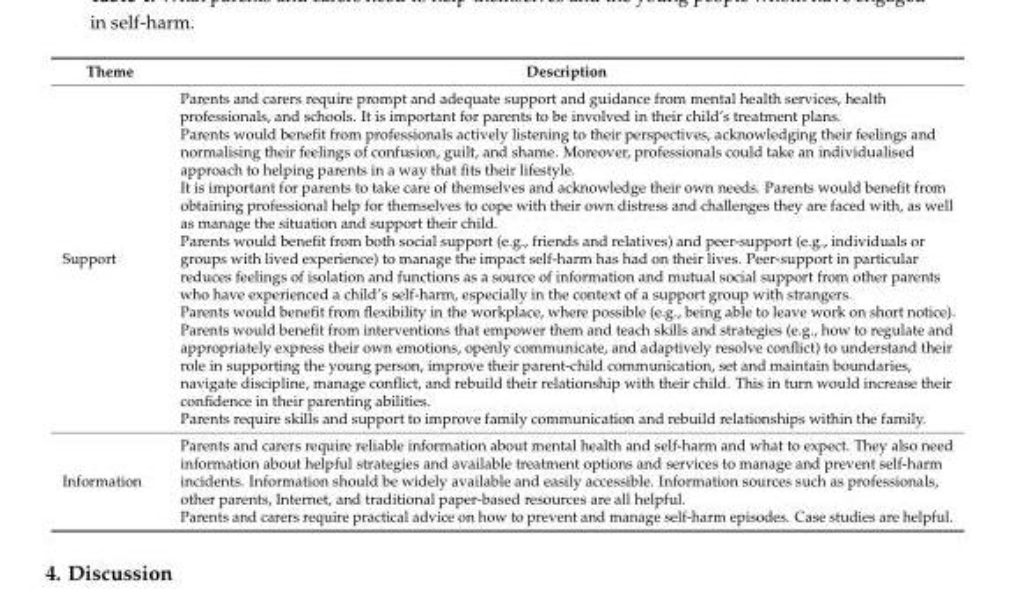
<table><thead><tr><td>Theme</td><td>Description</td></tr></thead><tbody><tr><td>Support</td><td>Parents and carers require prompt and adequate support and guidance from mental health services, health professionals, and schools. It is important for parents to be involved in their child’s treatment plans. Parents would benefit from professionals actively listening to their perspectives, acknowledging their feelings and normalising their feelings of confusion, guilt, and shame. Moreover, professionals could take an individualised approach to helping parents in a way that fits their lifestyle. It is important for parents to take care of themselves and acknowledge their own needs. Parents would benefit from obtaining professional help for themselves to cope with their own distress and challenges they are faced with, as well as manage the situation and support their child. Parents would benefit from both social support (e.g., friends and relatives) and peer-support (e.g., individuals or groups with lived experience) to manage the impact self-harm has had on their lives. Peer-support in particular reduces feelings of isolation and functions as a source of information and mutual social support from other parents who have experienced a child’s self-harm, especially in the context of a support group with strangers. Parents would benefit from flexibility in the workplace, where possible (e.g., being able to leave work on short notice). Parents would benefit from interventions that empower them and teach skills and strategies (e.g., how to regulate and appropriately express their own emotions, openly communicate, and adaptively resolve conflict) to understand their role in supporting the young person, improve their parent-child communication, set and maintain boundaries, navigate discipline, manage conflict, and rebuild their relationship with their child. This in turn would increase their confidence in their parenting abilities. Parents require skills and support to improve family communication and rebuild relationships within the family.</td></tr><tr><td>Information</td><td>Parents and carers require reliable information about mental health and self-harm and what to expect. They also need information about helpful strategies and available treatment options and services to manage and prevent self-harm incidents. Information should be widely available and easily accessible. Information sources such as professionals, other parents, Internet, and traditional paper-based resources are all helpful. Parents and carers require practical advice on how to prevent and manage self-harm episodes. Case studies are helpful.</td></tr></tbody></table>